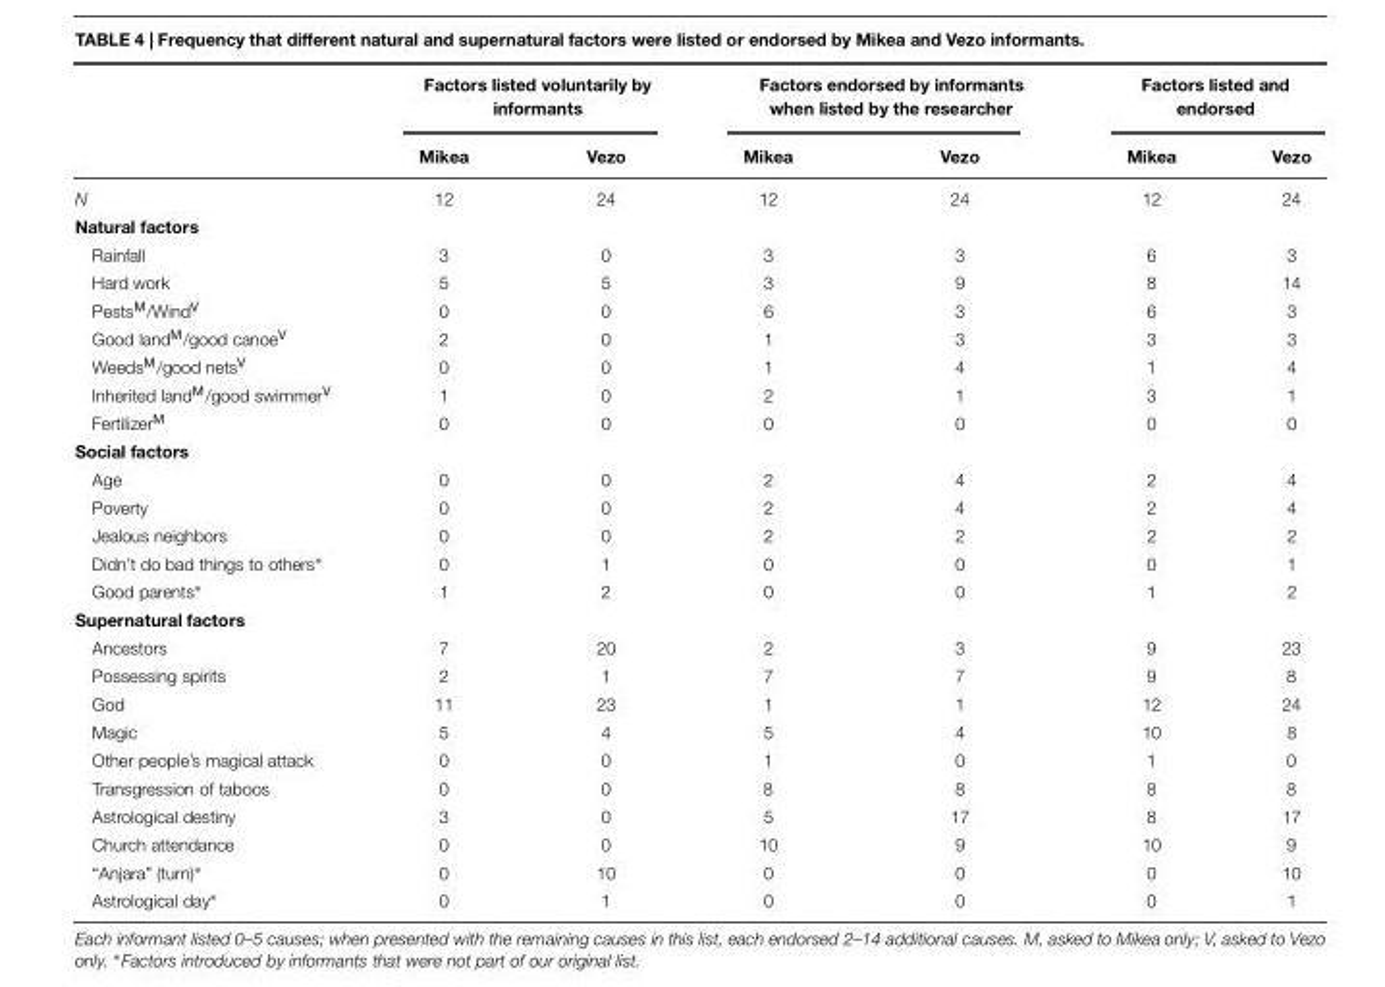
<table><thead><tr><td rowspan="2"></td><td colspan="2">Factors listed voluntarily by informants</td><td colspan="2">Factors endorsed by informants when listed by the researcher</td><td colspan="2">Factors listed and endorsed</td></tr><tr><td>Mikea</td><td>Vezo</td><td>Mikea</td><td>Vezo</td><td>Mikea</td><td>Vezo</td></tr></thead><tbody><tr><td>N</td><td>12</td><td>24</td><td>12</td><td>24</td><td>12</td><td>24</td></tr><tr><td colspan="7">Natural factors</td></tr><tr><td>Rainfall</td><td>3</td><td>0</td><td>3</td><td>3</td><td>6</td><td>3</td></tr><tr><td>Hard work</td><td>5</td><td>5</td><td>3</td><td>9</td><td>8</td><td>14</td></tr><tr><td>Pests<sup>M</sup>/Wind<sup>V</sup></td><td>0</td><td>0</td><td>6</td><td>3</td><td>6</td><td>3</td></tr><tr><td>Good land<sup>M</sup>/good canoe<sup>V</sup></td><td>2</td><td>0</td><td>1</td><td>3</td><td>3</td><td>3</td></tr><tr><td>Weeds<sup>M</sup>/good nets<sup>V</sup></td><td>0</td><td>0</td><td>1</td><td>4</td><td>1</td><td>4</td></tr><tr><td>Inherited land<sup>M</sup>/good swimmer<sup>V</sup></td><td>1</td><td>0</td><td>2</td><td>1</td><td>3</td><td>1</td></tr><tr><td>Fertilizer<sup>M</sup></td><td>0</td><td>0</td><td>0</td><td>0</td><td>0</td><td>0</td></tr><tr><td colspan="7">Social factors</td></tr><tr><td>Age</td><td>0</td><td>0</td><td>2</td><td>4</td><td>2</td><td>4</td></tr><tr><td>Poverty</td><td>0</td><td>0</td><td>2</td><td>4</td><td>2</td><td>4</td></tr><tr><td>Jealous neighbors</td><td>0</td><td>0</td><td>2</td><td>2</td><td>2</td><td>2</td></tr><tr><td>Didn’t do bad things to others∗</td><td>0</td><td>1</td><td>0</td><td>0</td><td>0</td><td>1</td></tr><tr><td>Good parents∗</td><td>1</td><td>2</td><td>0</td><td>0</td><td>1</td><td>2</td></tr><tr><td colspan="7">Supernatural factors</td></tr><tr><td>Ancestors</td><td>7</td><td>20</td><td>2</td><td>3</td><td>9</td><td>23</td></tr><tr><td>Possessing spirits</td><td>2</td><td>1</td><td>7</td><td>7</td><td>9</td><td>8</td></tr><tr><td>God</td><td>11</td><td>23</td><td>1</td><td>1</td><td>12</td><td>24</td></tr><tr><td>Magic</td><td>5</td><td>4</td><td>5</td><td>4</td><td>10</td><td>8</td></tr><tr><td>Other people’s magical attack</td><td>0</td><td>0</td><td>1</td><td>0</td><td>1</td><td>0</td></tr><tr><td>Transgression of taboos</td><td>0</td><td>0</td><td>8</td><td>8</td><td>8</td><td>8</td></tr><tr><td>Astrological destiny</td><td>3</td><td>0</td><td>5</td><td>17</td><td>8</td><td>17</td></tr><tr><td>Church attendance</td><td>0</td><td>0</td><td>10</td><td>9</td><td>10</td><td>9</td></tr><tr><td>“Anjara” (turn)∗</td><td>0</td><td>10</td><td>0</td><td>0</td><td>0</td><td>10</td></tr><tr><td>Astrological day∗</td><td>0</td><td>1</td><td>0</td><td>0</td><td>0</td><td>1</td></tr></tbody></table>